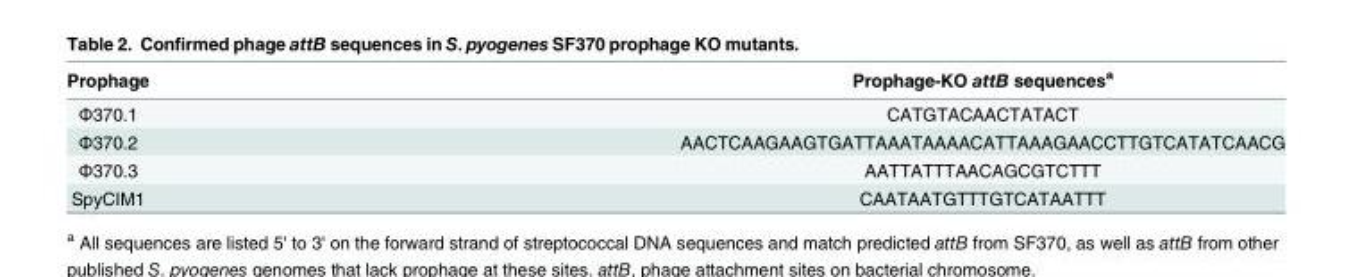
<table><thead><tr><td>Prophage</td><td>Prophage-KO attB sequences<sup>a</sup></td></tr></thead><tbody><tr><td>Φ370.1</td><td>CATGTACAACTATACT</td></tr><tr><td>Φ370.2</td><td>AACTCAAGAAGTGATTAAATAAAACATTAAAGAACCTTGTCATATCAACG</td></tr><tr><td>Φ370.3</td><td>AATTATTTAACAGCGTCTTT</td></tr><tr><td>SpyCIM1</td><td>CAATAATGTTTGTCATAATTT</td></tr></tbody></table>